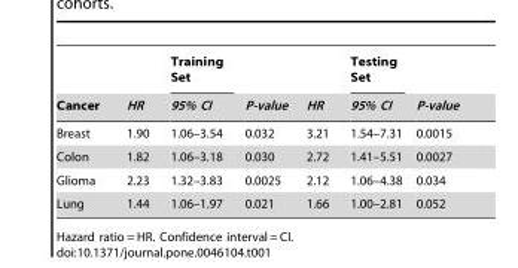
<table><thead><tr><td rowspan="2">Cancer</td><td rowspan="2">HR</td><td rowspan="2">Training Set 95% CI</td><td rowspan="2">P-value</td><td rowspan="2">HR</td><td rowspan="2">Testing Set 95% CI</td><td rowspan="2">P-value</td></tr><tr></tr></thead><tbody><tr><td>Breast</td><td>1.90</td><td>1.06–3.54</td><td>0.032</td><td>3.21</td><td>1.54–7.31</td><td>0.0015</td></tr><tr><td>Colon</td><td>1.82</td><td>1.06–3.18</td><td>0.030</td><td>2.72</td><td>1.41–5.51</td><td>0.0027</td></tr><tr><td>Glioma</td><td>2.23</td><td>1.32–3.83</td><td>0.0025</td><td>2.12</td><td>1.06–4.38</td><td>0.034</td></tr><tr><td>Lung</td><td>1.44</td><td>1.06–1.97</td><td>0.021</td><td>1.66</td><td>1.00–2.81</td><td>0.052</td></tr></tbody></table>